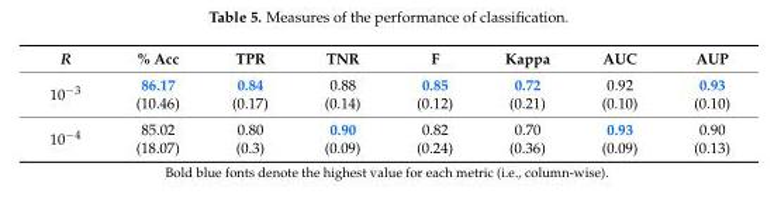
<table><thead><tr><td>R</td><td>% Acc</td><td>TPR</td><td>TNR</td><td>F</td><td>Kappa</td><td>AUC</td><td>AUP</td></tr></thead><tbody><tr><td>10<sup>−3</sup></td><td>86.17 (10.46)</td><td>0.84 (0.17)</td><td>0.88 (0.14)</td><td>0.85 (0.12)</td><td>0.72 (0.21)</td><td>0.92 (0.10)</td><td>0.93 (0.10)</td></tr><tr><td>10<sup>−4</sup></td><td>85.02 (18.07)</td><td>0.80 (0.3)</td><td>0.90 (0.09)</td><td>0.82 (0.24)</td><td>0.70 (0.36)</td><td>0.93 (0.09)</td><td>0.90 (0.13)</td></tr></tbody></table>